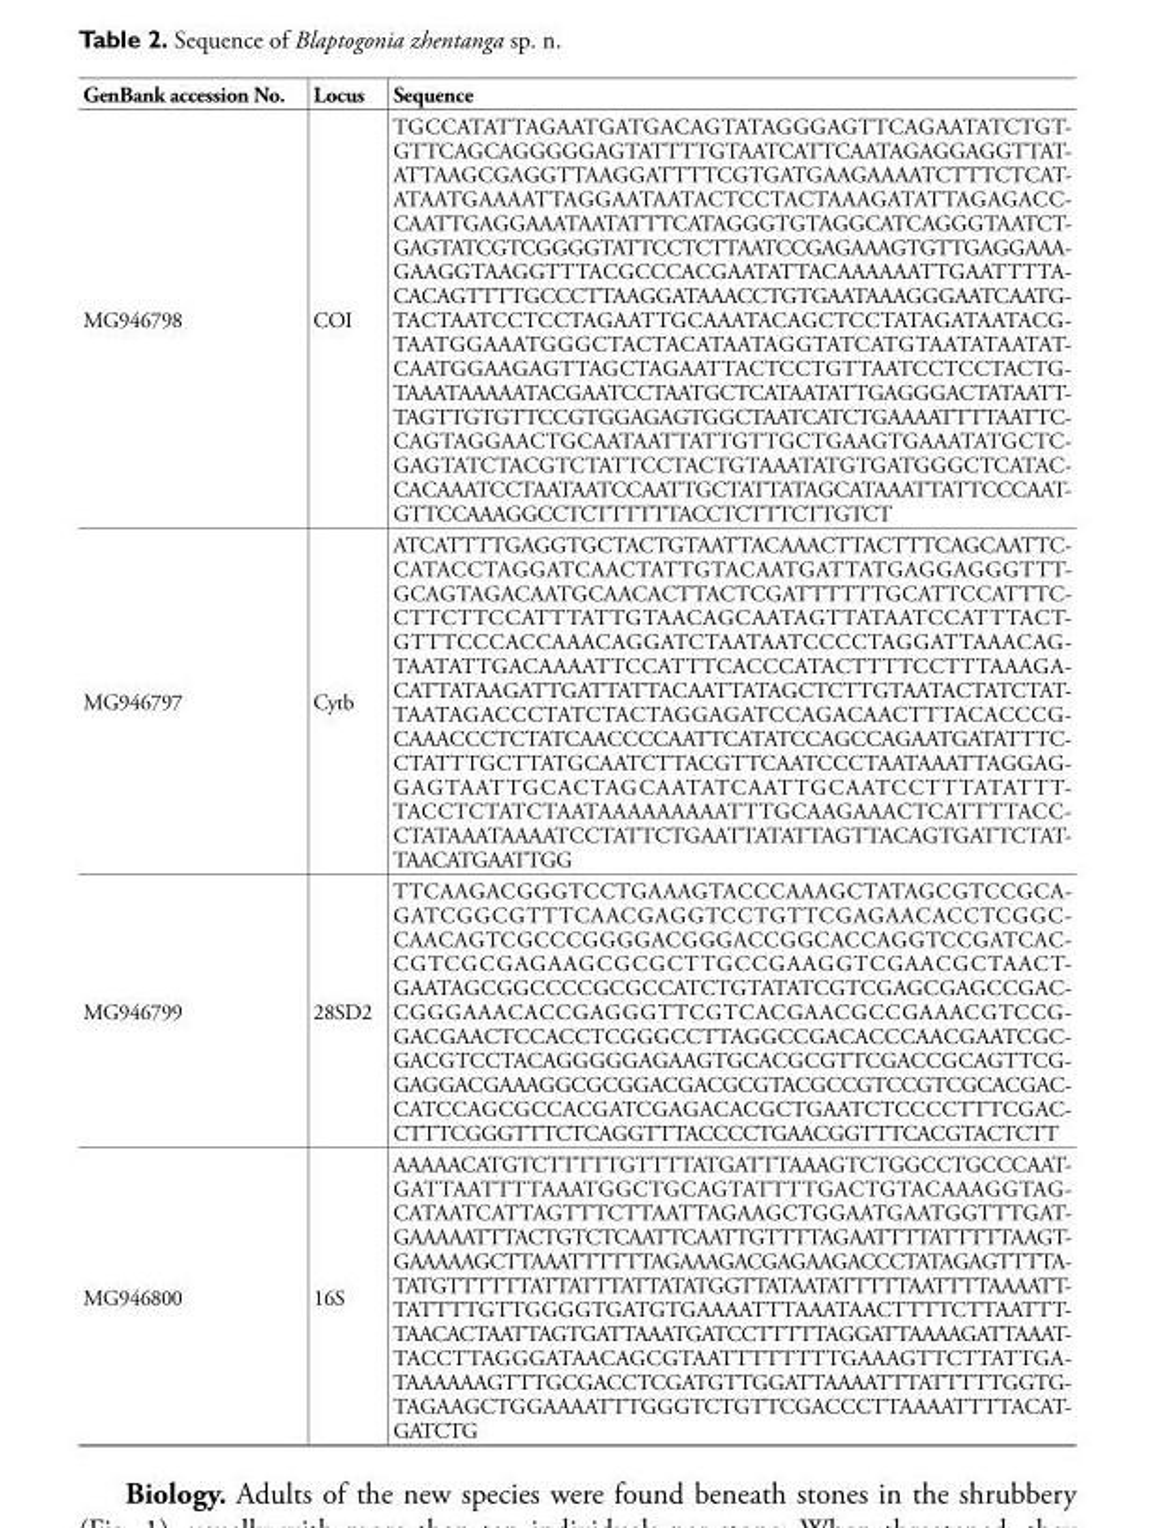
<table><tbody><tr><td>GenBank accession No.</td><td>Locus</td><td>Sequence</td></tr><tr><td>MG946798</td><td>COI</td><td>TGCCATATTAGAATGATGACAGTATAGGGAGTTCAGAATATCTGT- GTTCAGCAGGGGGAGTATTTTGTAATCATTCAATAGAGGAGGTTAT- ATTAAGCGAGGTTAAGGATTTTCGTGATGAAGAAAATCTTTCTCAT- ATAATGAAAATTAGGAATAATACTCCTACTAAAGATATTAGAGACC- CAATTGAGGAAATAATATTTCATAGGGTGTAGGCATCAGGGTAATCT- GAGTATCGTCGGGGTATTCCTCTTAATCCGAGAAAGTGTTGAGGAAA- GAAGGTAAGGTTTACGCCCACGAATATTACAAAAAATTGAATTTTA- CACAGTTTTGCCCTTAAGGATAAACCTGTGAATAAAGGGAATCAATG- TACTAATCCTCCTAGAATTGCAAATACAGCTCCTATAGATAATACG- TAATGGAAATGGGCTACTACATAATAGGTATCATGTAATATAATAT- CAATGGAAGAGTTAGCTAGAATTACTCCTGTTAATCCTCCTACTG- TAAATAAAAATACGAATCCTAATGCTCATAATATTGAGGGACTATAATT- TAGTTGTGTTCCGTGGAGAGTGGCTAATCATCTGAAAATTTTAATTC- CAGTAGGAACTGCAATAATTATTGTTGCTGAAGTGAAATATGCTC- GAGTATCTACGTCTATTCCTACTGTAAATATGTGATGGGCTCATAC- CACAAATCCTAATAATCCAATTGCTATTATAGCATAAATTATTCCCAAT- GTTCCAAAGGCCTCTTTTTTACCTCTTTCTTGTCT</td></tr><tr><td>MG946797</td><td>Cytb</td><td>ATCATTTTGAGGTGCTACTGTAATTACAAACTTACTTTCAGCAATTC- CATACCTAGGATCAACTATTGTACAATGATTATGAGGAGGGTTT- GCAGTAGACAATGCAACACTTACTCGATTTTTTGCATTCCATTTC- CTTCTTCCATTTATTGTAACAGCAATAGTTATAATCCATTTACT- GTTTCCCACCAAACAGGATCTAATAATCCCCTAGGATTAAACAG- TAATATTGACAAAATTCCATTTCACCCATACTTTTCCTTTAAAGA- CATTATAAGATTGATTATTACAATTATAGCTCTTGTAATACTATCTAT- TAATAGACCCTATCTACTAGGAGATCCAGACAACTTTACACCCG- CAAACCCTCTATCAACCCCAATTCATATCCAGCCAGAATGATATTTC- CTATTTGCTTATGCAATCTTACGTTCAATCCCTAATAAATTAGGAG- GAGTAATTGCACTAGCAATATCAATTGCAATCCTTTATATTT- TACCTCTATCTAATAAAAAAAAATTTGCAAGAAACTCATTTTACC- CTATAAATAAAATCCTATTCTGAATTATATTAGTTACAGTGATTCTAT- TAACATGAATTGG</td></tr><tr><td>MG946799</td><td>28SD2</td><td>TTCAAGACGGGTCCTGAAAGTACCCAAAGCTATAGCGTCCGCA- GATCGGCGTTTCAACGAGGTCCTGTTCGAGAACACCTCGGC- CAACAGTCGCCCGGGGACGGGACCGGCACCAGGTCCGATCAC- CGTCGCGAGAAGCGCGCTTGCCGAAGGTCGAACGCTAACT- GAATAGCGGCCCCGCGCCATCTGTATATCGTCGAGCGAGCCGAC- CGGGAAACACCGAGGGTTCGTCACGAACGCCGAAACGTCCG- GACGAACTCCACCTCGGGCCTTAGGCCGACACCCAACGAATCGC- GACGTCCTACAGGGGGAGAAGTGCACGCGTTCGACCGCAGTTCG- GAGGACGAAAGGCGCGGACGACGCGTACGCCGTCCGTCGCACGAC- CATCCAGCGCCACGATCGAGACACGCTGAATCTCCCCTTTCGAC- CTTTCGGGTTTCTCAGGTTTACCCCTGAACGGTTTCACGTACTCTT</td></tr><tr><td>MG946800</td><td>16S</td><td>AAAAACATGTCTTTTTGTTTTATGATTTAAAGTCTGGCCTGCCCAAT- GATTAATTTTAAATGGCTGCAGTATTTTGACTGTACAAAGGTAG- CATAATCATTAGTTTCTTAATTAGAAGCTGGAATGAATGGTTTGAT- GAAAAATTTACTGTCTCAATTCAATTGTTTTAGAATTTTATTTTTAAGT- GAAAAAGCTTAAATTTTTTAGAAAGACGAGAAGACCCTATAGAGTTTTA- TATGTTTTTTATTATTTATTATATGGTTATAATATTTTTAATTTTAAAATT- TATTTTGTTGGGGTGATGTGAAAATTTAAATAACTTTTCTTAATTT- TAACACTAATTAGTGATTAAATGATCCTTTTTAGGATTAAAAGATTAAAT- TACCTTAGGGATAACAGCGTAATTTTTTTTGAAAGTTCTTATTGA- TAAAAAAGTTTGCGACCTCGATGTTGGATTAAAATTTATTTTTGGTG- TAGAAGCTGGAAAATTTGGGTCTGTTCGACCCTTAAAATTTTACAT- GATCTG</td></tr></tbody></table>